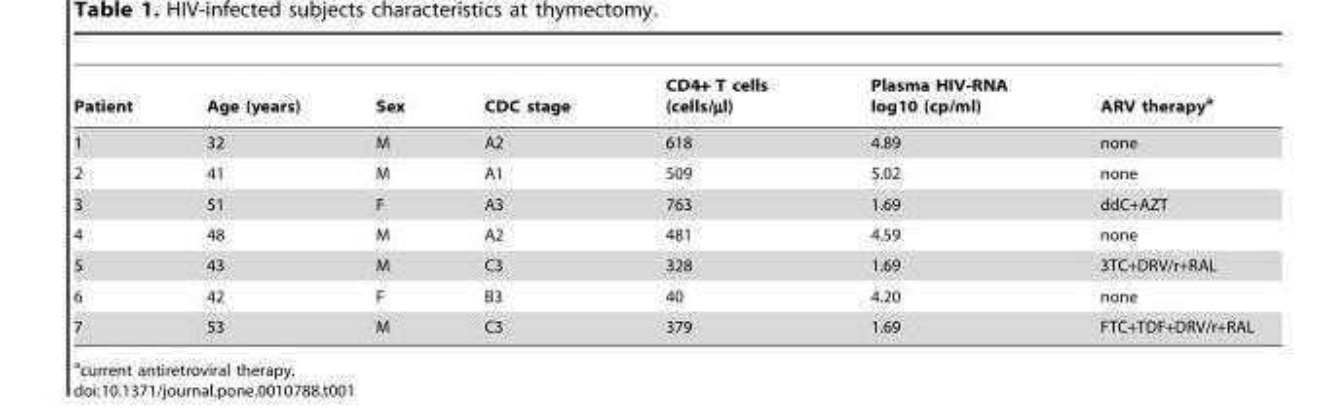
<table><thead><tr><td>Patient</td><td>Age (years)</td><td>Sex</td><td>CDC stage</td><td>CD4+ T cells (cells/µl)</td><td>Plasma HIV-RNA log10 (cp/ml)</td><td>ARV therapy<sup>a</sup></td></tr></thead><tbody><tr><td>1</td><td>32</td><td>M</td><td>A2</td><td>618</td><td>4.89</td><td>none</td></tr><tr><td>2</td><td>41</td><td>M</td><td>A1</td><td>509</td><td>5.02</td><td>none</td></tr><tr><td>3</td><td>51</td><td>F</td><td>A3</td><td>763</td><td>1.69</td><td>ddC+AZT</td></tr><tr><td>4</td><td>48</td><td>M</td><td>A2</td><td>481</td><td>4.59</td><td>none</td></tr><tr><td>5</td><td>43</td><td>M</td><td>C3</td><td>328</td><td>1.69</td><td>3TC+DRV/r+RAL</td></tr><tr><td>6</td><td>42</td><td>F</td><td>B3</td><td>40</td><td>4.20</td><td>none</td></tr><tr><td>7</td><td>53</td><td>M</td><td>C3</td><td>379</td><td>1.69</td><td>FTC+TDF+DRV/r+RAL</td></tr></tbody></table>